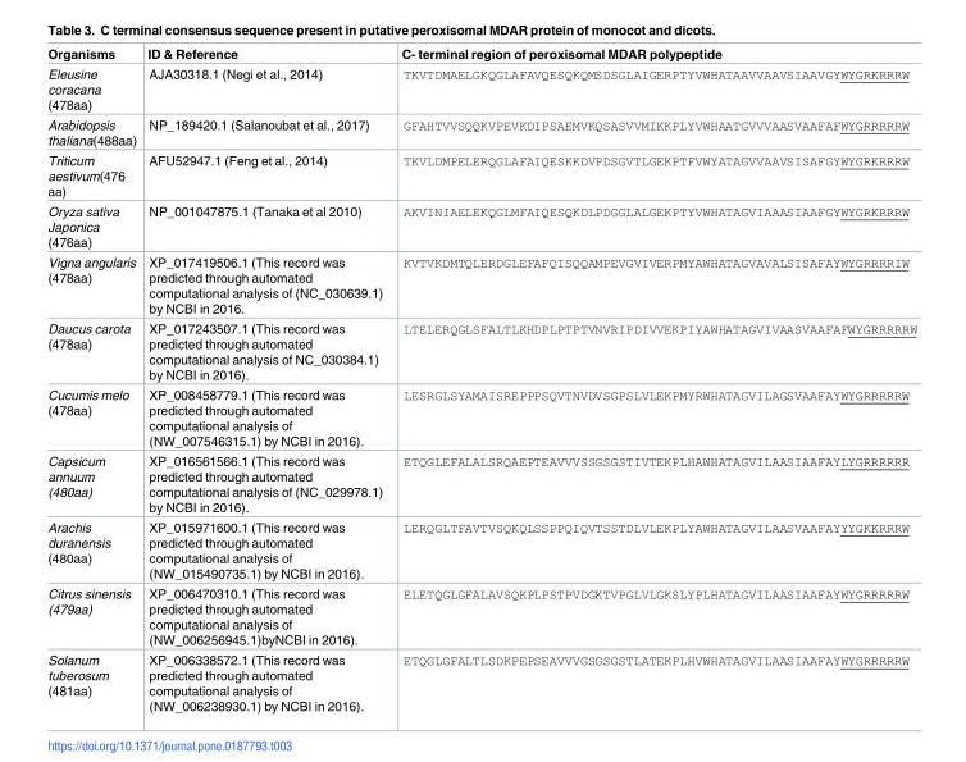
<table><thead><tr><td>Organisms</td><td>ID &amp; Reference</td><td>C- terminal region of peroxisomal MDAR polypeptide</td></tr></thead><tbody><tr><td>Eleusine coracana (478aa)</td><td>AJA30318.1 (Negi et al., 2014)</td><td>TKVTDMAELGKQGLAFAVQESQKQMSDSGLAIGERPTYVWHATAAVVAAVSIAAVGYWYGRKRRRW</td></tr><tr><td>Arabidopsis thaliana(488aa)</td><td>NP_189420.1 (Salanoubat et al., 2017)</td><td>GFAHTVVSQQKVPEVKDIPSAEMVKQSASVVMIKKPLYVWHAATGVVVAASVAAFAFWYGRRRRRW</td></tr><tr><td>Triticum aestivum(476 aa)</td><td>AFU52947.1 (Feng et al., 2014)</td><td>TKVLDMPELERQGLAFAIQESKKDVPDSGVTLGEKPTFVWYATAGVVAAVSISAFGYWYGRKRRRW</td></tr><tr><td>Oryza sativa Japonica (476aa)</td><td>NP_001047875.1 (Tanaka et al 2010)</td><td>AKVINIAELEKQGLMFAIQESQKDLPDGGLALGEKPTYVWHATAGVIAAASIAAFGYWYGRKRRRW</td></tr><tr><td>Vigna angularis (478aa)</td><td>XP_017419506.1 (This record was predicted through automated computational analysis of (NC_030639.1) by NCBI in 2016.</td><td>KVTVKDMTQLERDGLEFAFQISQQAMPEVGVIVERPMYAWHATAGVAVALSISAFAYWYGRRRRIW</td></tr><tr><td>Daucus carota (478aa)</td><td>XP_017243507.1 (This record was predicted through automated computational analysis of NC_030384.1) by NCBI in 2016).</td><td>LTELERQGLSFALTLKHDPLPTPTVNVRIPDIVVEKPIYAWHATAGVIVAASVAAFAFWYGRRRRRW</td></tr><tr><td>Cucumis melo (478aa)</td><td>XP_008458779.1 (This record was predicted through automated computational analysis of (NW_007546315.1) by NCBI in 2016).</td><td>LESRGLSYAMAISREPPPSQVTNVDVSGPSLVLEKPMYRWHATAGVILAGSVAAFAYWYGRRRRRW</td></tr><tr><td>Capsicum annuum (480aa)</td><td>XP_016561566.1 (This record was predicted through automated computational analysis of (NC_029978.1) by NCBI in 2016).</td><td>ETQGLEFALALSRQAEPTEAVVVSSGSGSTIVTEKPLHAWHATAGVILAASIAAFAYLYGRRRRRR</td></tr><tr><td>Arachis duranensis (480aa)</td><td>XP_015971600.1 (This record was predicted through automated computational analysis of (NW_015490735.1) by NCBI in 2016).</td><td>LERQGLTFAVTVSQKQLSSPPQIQVTSSTDLVLEKPLYAWHATAGVILAASVAAFAYYYGKKRRRW</td></tr><tr><td>Citrus sinensis (479aa)</td><td>XP_006470310.1 (This record was predicted through automated computational analysis of (NW_006256945.1)byNCBI in 2016).</td><td>ELETQGLGFALAVSQKPLPSTPVDGKTVPGLVLGKSLYPLHATAGVILAASIAAFAYWYGRRRRRW</td></tr><tr><td>Solanum tuberosum (481aa)</td><td>XP_006338572.1 (This record was predicted through automated computational analysis of (NW_006238930.1) by NCBI in 2016).</td><td>ETQGLGFALTLSDKPEPSEAVVVGSGSGSTLATEKPLHVWHATAGVILAASIAAFAYWYGRRRRRW</td></tr></tbody></table>